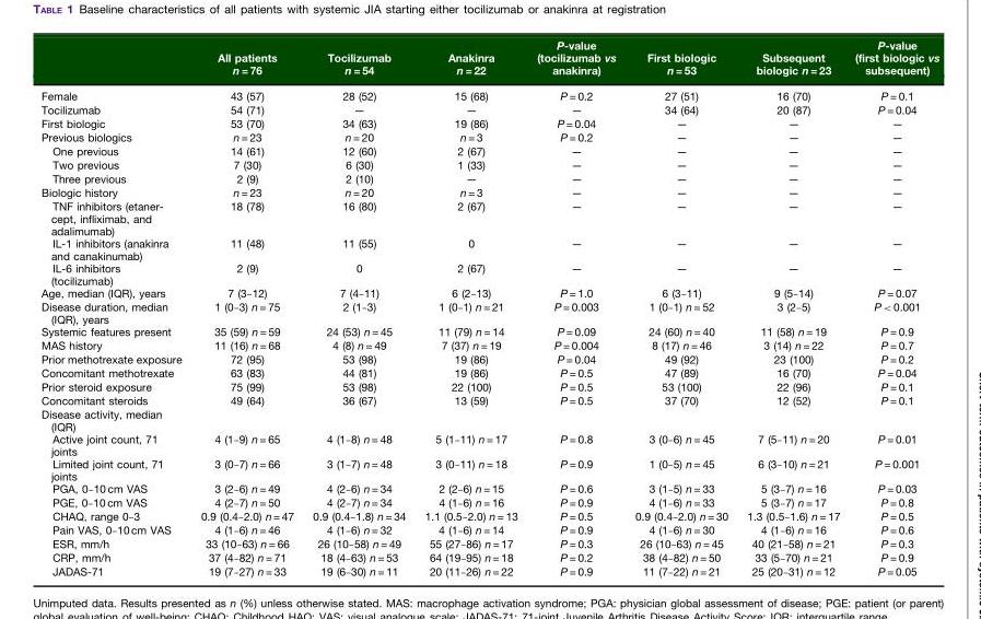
<table><thead><tr><td></td><td>All patients n = 76</td><td>Tocilizumab n = 54</td><td>Anakinra n = 22</td><td>P-value (tocilizumab vs anakinra)</td><td>First biologic n = 53</td><td>Subsequent biologic n = 23</td><td>P-value (first biologic vs subsequent)</td></tr></thead><tbody><tr><td>Female</td><td>43 (57)</td><td>28 (52)</td><td>15 (68)</td><td>P = 0.2</td><td>27 (51)</td><td>16 (70)</td><td>P = 0.1</td></tr><tr><td>Tocilizumab</td><td>54 (71)</td><td>—</td><td>—</td><td>—</td><td>34 (64)</td><td>20 (87)</td><td>P = 0.04</td></tr><tr><td>First biologic</td><td>53 (70)</td><td>34 (63)</td><td>19 (86)</td><td>P = 0.04</td><td>—</td><td>—</td><td>—</td></tr><tr><td>Previous biologics</td><td>n = 23</td><td>n = 20</td><td>n = 3</td><td>P = 0.2</td><td>—</td><td>—</td><td>—</td></tr><tr><td>One previous</td><td>14 (61)</td><td>12 (60)</td><td>2 (67)</td><td>—</td><td>—</td><td>—</td><td>—</td></tr><tr><td>Two previous</td><td>7 (30)</td><td>6 (30)</td><td>1 (33)</td><td>—</td><td>—</td><td>—</td><td>—</td></tr><tr><td>Three previous</td><td>2 (9)</td><td>2 (10)</td><td>—</td><td>—</td><td>—</td><td>—</td><td>—</td></tr><tr><td>Biologic history</td><td>n = 23</td><td>n = 20</td><td>n = 3</td><td>—</td><td>—</td><td>—</td><td>—</td></tr><tr><td>TNF inhibitors (etaner- cept, infliximab, and adalimumab)</td><td>18 (78)</td><td>16 (80)</td><td>2 (67)</td><td>—</td><td>—</td><td>—</td><td>—</td></tr><tr><td>IL-1 inhibitors (anakinra and canakinumab)</td><td>11 (48)</td><td>11 (55)</td><td>0</td><td>—</td><td>—</td><td>—</td><td>—</td></tr><tr><td>IL-6 inhibitors (tocilizumab)</td><td>2 (9)</td><td>0</td><td>2 (67)</td><td>—</td><td>—</td><td>—</td><td>—</td></tr><tr><td>Age, median (IQR), years</td><td>7 (3–12)</td><td>7 (4–11)</td><td>6 (2–13)</td><td>P = 1.0</td><td>6 (3–11)</td><td>9 (5–14)</td><td>P = 0.07</td></tr><tr><td>Disease duration, median (IQR), years</td><td>1 (0–3) n = 75</td><td>2 (1–3)</td><td>1 (0–1) n = 21</td><td>P = 0.003</td><td>1 (0–1) n = 52</td><td>3 (2–5)</td><td>P &lt; 0.001</td></tr><tr><td>Systemic features present</td><td>35 (59) n = 59</td><td>24 (53) n = 45</td><td>11 (79) n = 14</td><td>P = 0.09</td><td>24 (60) n = 40</td><td>11 (58) n = 19</td><td>P = 0.9</td></tr><tr><td>MAS history</td><td>11 (16) n = 68</td><td>4 (8) n = 49</td><td>7 (37) n = 19</td><td>P = 0.004</td><td>8 (17) n = 46</td><td>3 (14) n = 22</td><td>P = 0.7</td></tr><tr><td>Prior methotrexate exposure</td><td>72 (95)</td><td>53 (98)</td><td>19 (86)</td><td>P = 0.04</td><td>49 (92)</td><td>23 (100)</td><td>P = 0.2</td></tr><tr><td>Concomitant methotrexate</td><td>63 (83)</td><td>44 (81)</td><td>19 (86)</td><td>P = 0.5</td><td>47 (89)</td><td>16 (70)</td><td>P = 0.04</td></tr><tr><td>Prior steroid exposure</td><td>75 (99)</td><td>53 (98)</td><td>22 (100)</td><td>P = 0.5</td><td>53 (100)</td><td>22 (96)</td><td>P = 0.1</td></tr><tr><td>Concomitant steroids</td><td>49 (64)</td><td>36 (67)</td><td>13 (59)</td><td>P = 0.5</td><td>37 (70)</td><td>12 (52)</td><td>P = 0.1</td></tr><tr><td colspan="8">Disease activity, median (IQR)</td></tr><tr><td>Active joint count, 71 joints</td><td>4 (1–9) n = 65</td><td>4 (1–8) n = 48</td><td>5 (1–11) n = 17</td><td>P = 0.8</td><td>3 (0–6) n = 45</td><td>7 (5–11) n = 20</td><td>P = 0.01</td></tr><tr><td>Limited joint count, 71 joints</td><td>3 (0–7) n = 66</td><td>3 (1–7) n = 48</td><td>3 (0–11) n = 18</td><td>P = 0.9</td><td>1 (0–5) n = 45</td><td>6 (3–10) n = 21</td><td>P = 0.001</td></tr><tr><td>PGA, 0–10 cm VAS</td><td>3 (2–6) n = 49</td><td>4 (2–6) n = 34</td><td>2 (2–6) n = 15</td><td>P = 0.6</td><td>3 (1–5) n = 33</td><td>5 (3–7) n = 16</td><td>P = 0.03</td></tr><tr><td>PGE, 0–10 cm VAS</td><td>4 (2–7) n = 50</td><td>4 (2–7) n = 34</td><td>4 (1–6) n = 16</td><td>P = 0.9</td><td>4 (1–6) n = 33</td><td>5 (3–7) n = 17</td><td>P = 0.8</td></tr><tr><td>CHAQ, range 0–3</td><td>0.9 (0.4–2.0) n = 47</td><td>0.9 (0.4–1.8) n = 34</td><td>1.1 (0.5–2.0) n = 13</td><td>P = 0.5</td><td>0.9 (0.4–2.0) n = 30</td><td>1.3 (0.5–1.6) n = 17</td><td>P = 0.5</td></tr><tr><td>Pain VAS, 0–10 cm VAS</td><td>4 (1–6) n = 46</td><td>4 (1–6) n = 32</td><td>4 (1–6) n = 14</td><td>P = 0.9</td><td>4 (1–6) n = 30</td><td>4 (1–6) n = 16</td><td>P = 0.6</td></tr><tr><td>ESR, mm/h</td><td>33 (10–63) n = 66</td><td>26 (10–58) n = 49</td><td>55 (27–86) n = 17</td><td>P = 0.3</td><td>26 (10–63) n = 45</td><td>40 (21–58) n = 21</td><td>P = 0.3</td></tr><tr><td>CRP, mm/h</td><td>37 (4–82) n = 71</td><td>18 (4–63) n = 53</td><td>64 (19–95) n = 18</td><td>P = 0.2</td><td>38 (4–82) n = 50</td><td>33 (5–70) n = 21</td><td>P = 0.9</td></tr><tr><td>JADAS-71</td><td>19 (7–27) n = 33</td><td>19 (6–30) n = 11</td><td>20 (11–26) n = 22</td><td>P = 0.9</td><td>11 (7–22) n = 21</td><td>25 (20–31) n = 12</td><td>P = 0.05</td></tr></tbody></table>